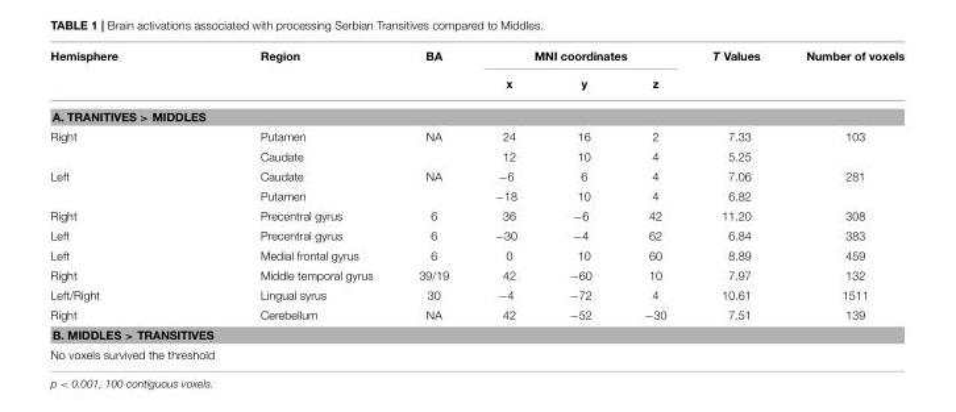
<table><thead><tr><td rowspan="2">Hemisphere</td><td rowspan="2">Region</td><td rowspan="2">BA</td><td colspan="3">MNI coordinates</td><td rowspan="2">T Values</td><td rowspan="2">Number of voxels</td></tr><tr><td>x</td><td>y</td><td>z</td></tr></thead><tbody><tr><td colspan="8">A. TRANITIVES &gt; MIDDLES</td></tr><tr><td rowspan="2">Right</td><td>Putamen</td><td>NA</td><td>24</td><td>16</td><td>2</td><td>7.33</td><td>103</td></tr><tr><td>Caudate</td><td></td><td>12</td><td>10</td><td>4</td><td>5.25</td><td></td></tr><tr><td rowspan="2">Left</td><td>Caudate</td><td>NA</td><td>−6</td><td>6</td><td>4</td><td>7.06</td><td>281</td></tr><tr><td>Putamen</td><td></td><td>−18</td><td>10</td><td>4</td><td>6.82</td><td></td></tr><tr><td>Right</td><td>Precentral gyrus</td><td>6</td><td>36</td><td>−6</td><td>42</td><td>11.20</td><td>308</td></tr><tr><td>Left</td><td>Precentral gyrus</td><td>6</td><td>−30</td><td>−4</td><td>62</td><td>6.84</td><td>383</td></tr><tr><td>Left</td><td>Medial frontal gyrus</td><td>6</td><td>0</td><td>10</td><td>60</td><td>8.89</td><td>459</td></tr><tr><td>Right</td><td>Middle temporal gyrus</td><td>39/19</td><td>42</td><td>−60</td><td>10</td><td>7.97</td><td>132</td></tr><tr><td>Left/Right</td><td>Lingual syrus</td><td>30</td><td>−4</td><td>−72</td><td>4</td><td>10.61</td><td>1511</td></tr><tr><td>Right</td><td>Cerebellum</td><td>NA</td><td>42</td><td>−52</td><td>−30</td><td>7.51</td><td>139</td></tr><tr><td colspan="8">B. MIDDLES &gt; TRANSITIVES</td></tr><tr><td colspan="8">No voxels survived the threshold</td></tr></tbody></table>